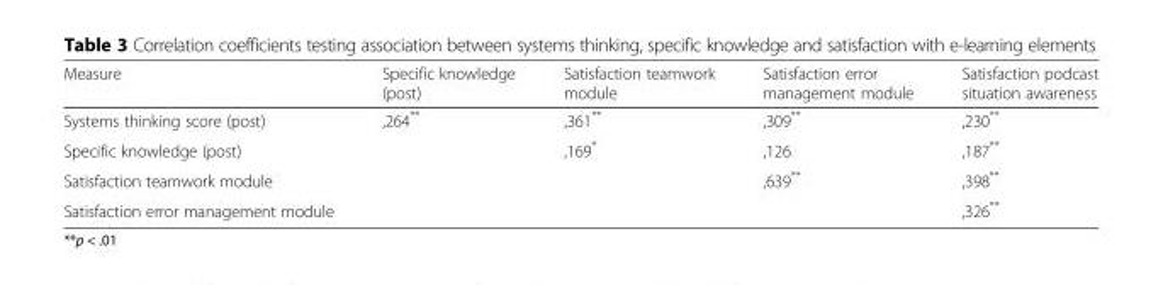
<table><thead><tr><td>Measure</td><td>Specific knowledge (post)</td><td>Satisfaction teamwork module</td><td>Satisfaction error management module</td><td>Satisfaction podcast situation awareness</td></tr></thead><tbody><tr><td>Systems thinking score (post)</td><td>,264**</td><td>,361**</td><td>,309**</td><td>,230**</td></tr><tr><td>Specific knowledge (post)</td><td></td><td>,169*</td><td>,126</td><td>,187**</td></tr><tr><td>Satisfaction teamwork module</td><td></td><td></td><td>,639**</td><td>,398**</td></tr><tr><td>Satisfaction error management module</td><td></td><td></td><td></td><td>,326**</td></tr></tbody></table>